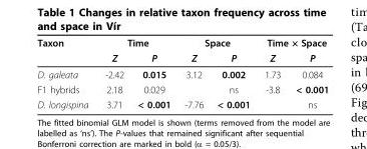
<table><thead><tr><td rowspan="2">Taxon</td><td colspan="2">Time</td><td colspan="2">Space</td><td colspan="2">Time × Space</td></tr><tr><td>Z</td><td>P</td><td>Z</td><td>P</td><td>Z</td><td>P</td></tr></thead><tbody><tr><td>D. galeata</td><td>-2.42</td><td>0.015</td><td>3.12</td><td>0.002</td><td>1.73</td><td>0.084</td></tr><tr><td>F1 hybrids</td><td>2.18</td><td>0.029</td><td></td><td>ns</td><td>-3.8</td><td>&lt; 0.001</td></tr><tr><td>D. longispina</td><td>3.71</td><td>&lt; 0.001</td><td>-7.76</td><td>&lt; 0.001</td><td></td><td>ns</td></tr></tbody></table>